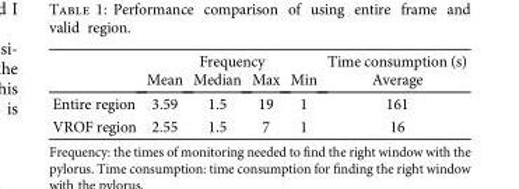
<table><thead><tr><td rowspan="2"></td><td colspan="4">Frequency</td><td rowspan="2">Time consumption (s) Average</td></tr><tr><td>Mean</td><td>Median</td><td>Max</td><td>Min</td></tr></thead><tbody><tr><td>Entire region</td><td>3.59</td><td>1.5</td><td>19</td><td>1</td><td>161</td></tr><tr><td>VROF region</td><td>2.55</td><td>1.5</td><td>7</td><td>1</td><td>16</td></tr></tbody></table>